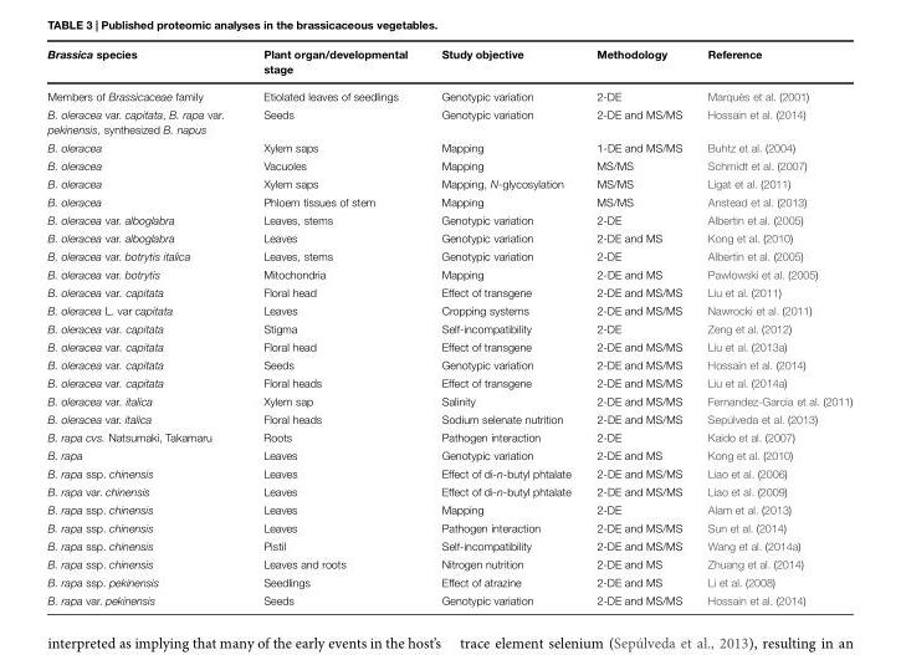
<table><thead><tr><td>Brassica species</td><td>Plant organ/developmental stage</td><td>Study objective</td><td>Methodology</td><td>Reference</td></tr></thead><tbody><tr><td>Members of Brassicaceae family</td><td>Etiolated leaves of seedlings</td><td>Genotypic variation</td><td>2-DE</td><td>Marquès et al. (2001)</td></tr><tr><td>B. oleracea var. capitata, B. rapa var. pekinensis, synthesized B. napus</td><td>Seeds</td><td>Genotypic variation</td><td>2-DE and MS/MS</td><td>Hossain et al. (2014)</td></tr><tr><td>B. oleracea</td><td>Xylem saps</td><td>Mapping</td><td>1-DE and MS/MS</td><td>Buhtz et al. (2004)</td></tr><tr><td>B. oleracea</td><td>Vacuoles</td><td>Mapping</td><td>MS/MS</td><td>Schmidt et al. (2007)</td></tr><tr><td>B. oleracea</td><td>Xylem saps</td><td>Mapping, N-glycosylation</td><td>MS/MS</td><td>Ligat et al. (2011)</td></tr><tr><td>B. oleracea</td><td>Phloem tissues of stem</td><td>Mapping</td><td>MS/MS</td><td>Anstead et al. (2013)</td></tr><tr><td>B. oleracea var. alboglabra</td><td>Leaves, stems</td><td>Genotypic variation</td><td>2-DE</td><td>Albertin et al. (2005)</td></tr><tr><td>B. oleracea var. alboglabra</td><td>Leaves</td><td>Genotypic variation</td><td>2-DE and MS</td><td>Kong et al. (2010)</td></tr><tr><td>B. oleracea var. botrytis italica</td><td>Leaves, stems</td><td>Genotypic variation</td><td>2-DE</td><td>Albertin et al. (2005)</td></tr><tr><td>B. oleracea var. botrytis</td><td>Mitochondria</td><td>Mapping</td><td>2-DE and MS</td><td>Pawlowski et al. (2005)</td></tr><tr><td>B. oleracea var. capitata</td><td>Floral head</td><td>Effect of transgene</td><td>2-DE and MS/MS</td><td>Liu et al. (2011)</td></tr><tr><td>B. oleracea L. var capitata</td><td>Leaves</td><td>Cropping systems</td><td>2-DE and MS/MS</td><td>Nawrocki et al. (2011)</td></tr><tr><td>B. oleracea var. capitata</td><td>Stigma</td><td>Self-incompatibility</td><td>2-DE</td><td>Zeng et al. (2012)</td></tr><tr><td>B. oleracea var. capitata</td><td>Floral head</td><td>Effect of transgene</td><td>2-DE and MS/MS</td><td>Liu et al. (2013a)</td></tr><tr><td>B. oleracea var. capitata</td><td>Seeds</td><td>Genotypic variation</td><td>2-DE and MS/MS</td><td>Hossain et al. (2014)</td></tr><tr><td>B. oleracea var. capitata</td><td>Floral heads</td><td>Effect of transgene</td><td>2-DE and MS/MS</td><td>Liu et al. (2014a)</td></tr><tr><td>B. oleracea var. italica</td><td>Xylem sap</td><td>Salinity</td><td>2-DE and MS/MS</td><td>Fernandez-Garcia et al. (2011)</td></tr><tr><td>B. oleracea var. italica</td><td>Floral heads</td><td>Sodium selenate nutrition</td><td>2-DE and MS/MS</td><td>Sepúlveda et al. (2013)</td></tr><tr><td>B. rapa cvs. Natsumaki, Takamaru</td><td>Roots</td><td>Pathogen interaction</td><td>2-DE</td><td>Kaido et al. (2007)</td></tr><tr><td>B. rapa</td><td>Leaves</td><td>Genotypic variation</td><td>2-DE and MS</td><td>Kong et al. (2010)</td></tr><tr><td>B. rapa ssp. chinensis</td><td>Leaves</td><td>Effect of di-n-butyl phtalate</td><td>2-DE and MS/MS</td><td>Liao et al. (2006)</td></tr><tr><td>B. rapa var. chinensis</td><td>Leaves</td><td>Effect of di-n-butyl phtalate</td><td>2-DE and MS/MS</td><td>Liao et al. (2009)</td></tr><tr><td>B. rapa ssp. chinensis</td><td>Leaves</td><td>Mapping</td><td>2-DE</td><td>Alam et al. (2013)</td></tr><tr><td>B. rapa ssp. chinensis</td><td>Leaves</td><td>Pathogen interaction</td><td>2-DE and MS/MS</td><td>Sun et al. (2014)</td></tr><tr><td>B. rapa ssp. chinensis</td><td>Pistil</td><td>Self-incompatibility</td><td>2-DE and MS/MS</td><td>Wang et al. (2014a)</td></tr><tr><td>B. rapa ssp. chinensis</td><td>Leaves and roots</td><td>Nitrogen nutrition</td><td>2-DE and MS</td><td>Zhuang et al. (2014)</td></tr><tr><td>B. rapa ssp. pekinensis</td><td>Seedlings</td><td>Effect of atrazine</td><td>2-DE and MS</td><td>Li et al. (2008)</td></tr><tr><td>B. rapa var. pekinensis</td><td>Seeds</td><td>Genotypic variation</td><td>2-DE and MS/MS</td><td>Hossain et al. (2014)</td></tr></tbody></table>